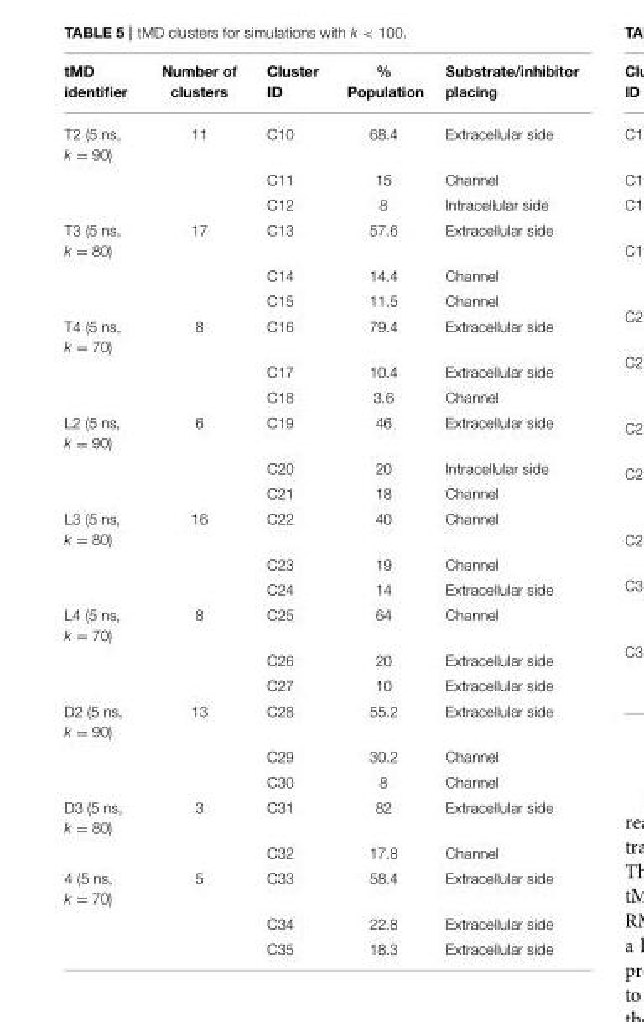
<table><thead><tr><td>tMD identifier</td><td>Number of clusters</td><td>Cluster ID</td><td>% Population</td><td>Substrate/inhibitor placing</td></tr></thead><tbody><tr><td rowspan="3">T2 (5 ns, k = 90)</td><td>11</td><td>C10</td><td>68.4</td><td>Extracellular side</td></tr><tr><td></td><td>C11</td><td>15</td><td>Channel</td></tr><tr><td></td><td>C12</td><td>8</td><td>Intracellular side</td></tr><tr><td rowspan="3">T3 (5 ns, k = 80)</td><td>17</td><td>C13</td><td>57.6</td><td>Extracellular side</td></tr><tr><td></td><td>C14</td><td>14.4</td><td>Channel</td></tr><tr><td></td><td>C15</td><td>11.5</td><td>Channel</td></tr><tr><td rowspan="3">T4 (5 ns, k = 70)</td><td>8</td><td>C16</td><td>79.4</td><td>Extracellular side</td></tr><tr><td></td><td>C17</td><td>10.4</td><td>Extracellular side</td></tr><tr><td></td><td>C18</td><td>3.6</td><td>Channel</td></tr><tr><td rowspan="3">L2 (5 ns, k = 90)</td><td>6</td><td>C19</td><td>46</td><td>Extracellular side</td></tr><tr><td></td><td>C20</td><td>20</td><td>Intracellular side</td></tr><tr><td></td><td>C21</td><td>18</td><td>Channel</td></tr><tr><td rowspan="3">L3 (5 ns, k = 80)</td><td>16</td><td>C22</td><td>40</td><td>Channel</td></tr><tr><td></td><td>C23</td><td>19</td><td>Channel</td></tr><tr><td></td><td>C24</td><td>14</td><td>Extracellular side</td></tr><tr><td rowspan="3">L4 (5 ns, k = 70)</td><td>8</td><td>C25</td><td>64</td><td>Channel</td></tr><tr><td></td><td>C26</td><td>20</td><td>Extracellular side</td></tr><tr><td></td><td>C27</td><td>10</td><td>Extracellular side</td></tr><tr><td rowspan="3">D2 (5 ns, k = 90)</td><td>13</td><td>C28</td><td>55.2</td><td>Extracellular side</td></tr><tr><td></td><td>C29</td><td>30.2</td><td>Channel</td></tr><tr><td></td><td>C30</td><td>8</td><td>Channel</td></tr><tr><td rowspan="2">D3 (5 ns, k = 80)</td><td>3</td><td>C31</td><td>82</td><td>Extracellular side</td></tr><tr><td></td><td>C32</td><td>17.8</td><td>Channel</td></tr><tr><td rowspan="3">4 (5 ns, k = 70)</td><td>5</td><td>C33</td><td>58.4</td><td>Extracellular side</td></tr><tr><td></td><td>C34</td><td>22.8</td><td>Extracellular side</td></tr><tr><td></td><td>C35</td><td>18.3</td><td>Extracellular side</td></tr></tbody></table>